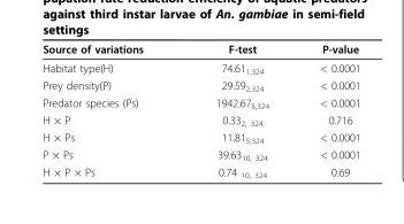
<table><thead><tr><td>Source of variations</td><td>F-test</td><td>P-value</td></tr></thead><tbody><tr><td>Habitat type(H)</td><td>74.61<sub>1,324</sub></td><td>&lt; 0.0001</td></tr><tr><td>Prey density(P)</td><td>29.59<sub>2,324</sub></td><td>&lt; 0.0001</td></tr><tr><td>Predator species (Ps)</td><td>1942.67<sub>5,324</sub></td><td>&lt; 0.0001</td></tr><tr><td>H × P</td><td>0.33<sub>2, 324</sub></td><td>0.716</td></tr><tr><td>H × Ps</td><td>11.81<sub>5,324</sub></td><td>&lt; 0.0001</td></tr><tr><td>P × Ps</td><td>39.63<sub>10, 324</sub></td><td>&lt; 0.0001</td></tr><tr><td>H × P × Ps</td><td>0.74 <sub>10, 324</sub></td><td>0.69</td></tr></tbody></table>